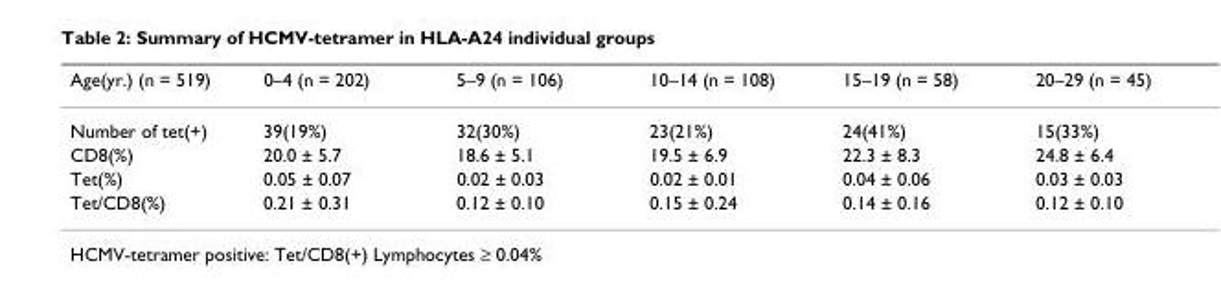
<table><thead><tr><td>Age(yr.) (n = 519)</td><td>0–4 (n = 202)</td><td>5–9 (n = 106)</td><td>10–14 (n = 108)</td><td>15–19 (n = 58)</td><td>20–29 (n = 45)</td></tr></thead><tbody><tr><td>Number of tet(+)</td><td>39(19%)</td><td>32(30%)</td><td>23(21%)</td><td>24(41%)</td><td>15(33%)</td></tr><tr><td>CD8(%)</td><td>20.0 ± 5.7</td><td>18.6 ± 5.1</td><td>19.5 ± 6.9</td><td>22.3 ± 8.3</td><td>24.8 ± 6.4</td></tr><tr><td>Tet(%)</td><td>0.05 ± 0.07</td><td>0.02 ± 0.03</td><td>0.02 ± 0.01</td><td>0.04 ± 0.06</td><td>0.03 ± 0.03</td></tr><tr><td>Tet/CD8(%)</td><td>0.21 ± 0.31</td><td>0.12 ± 0.10</td><td>0.15 ± 0.24</td><td>0.14 ± 0.16</td><td>0.12 ± 0.10</td></tr></tbody></table>